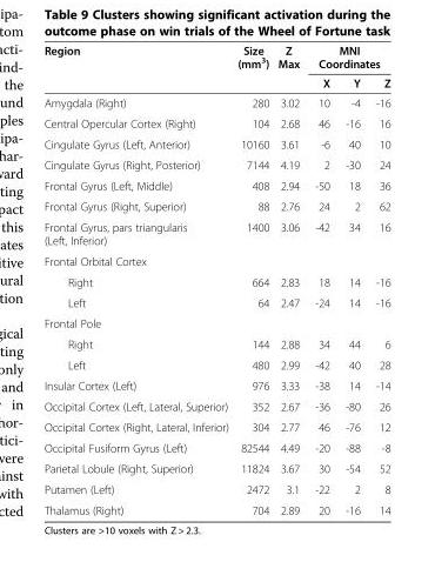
<table><thead><tr><td rowspan="2">Region</td><td rowspan="2">Size (mm<sup>3</sup>)</td><td rowspan="2">Z Max</td><td colspan="3">MNI Coordinates</td></tr><tr><td>X</td><td>Y</td><td>Z</td></tr></thead><tbody><tr><td>Amygdala (Right)</td><td>280</td><td>3.02</td><td>10</td><td>-4</td><td>-16</td></tr><tr><td>Central Opercular Cortex (Right)</td><td>104</td><td>2.68</td><td>46</td><td>-16</td><td>16</td></tr><tr><td>Cingulate Gyrus (Left, Anterior)</td><td>10160</td><td>3.61</td><td>-6</td><td>40</td><td>10</td></tr><tr><td>Cingulate Gyrus (Right, Posterior)</td><td>7144</td><td>4.19</td><td>2</td><td>-30</td><td>24</td></tr><tr><td>Frontal Gyrus (Left, Middle)</td><td>408</td><td>2.94</td><td>-50</td><td>18</td><td>36</td></tr><tr><td>Frontal Gyrus (Right, Superior)</td><td>88</td><td>2.76</td><td>24</td><td>2</td><td>62</td></tr><tr><td>Frontal Gyrus, pars triangularis (Left, Inferior)</td><td>1400</td><td>3.06</td><td>-42</td><td>34</td><td>16</td></tr><tr><td colspan="6">Frontal Orbital Cortex</td></tr><tr><td>Right</td><td>664</td><td>2.83</td><td>18</td><td>14</td><td>-16</td></tr><tr><td>Left</td><td>64</td><td>2.47</td><td>-24</td><td>14</td><td>-16</td></tr><tr><td colspan="6">Frontal Pole</td></tr><tr><td>Right</td><td>144</td><td>2.88</td><td>34</td><td>44</td><td>6</td></tr><tr><td>Left</td><td>480</td><td>2.99</td><td>-42</td><td>40</td><td>28</td></tr><tr><td>Insular Cortex (Left)</td><td>976</td><td>3.33</td><td>-38</td><td>14</td><td>-14</td></tr><tr><td>Occipital Cortex (Left, Lateral, Superior)</td><td>352</td><td>2.67</td><td>-36</td><td>-80</td><td>26</td></tr><tr><td>Occipital Cortex (Right, Lateral, Inferior)</td><td>304</td><td>2.77</td><td>46</td><td>-76</td><td>12</td></tr><tr><td>Occipital Fusiform Gyrus (Left)</td><td>82544</td><td>4.49</td><td>-20</td><td>-88</td><td>-8</td></tr><tr><td>Parietal Lobule (Right, Superior)</td><td>11824</td><td>3.67</td><td>30</td><td>-54</td><td>52</td></tr><tr><td>Putamen (Left)</td><td>2472</td><td>3.1</td><td>-22</td><td>2</td><td>8</td></tr><tr><td>Thalamus (Right)</td><td>704</td><td>2.89</td><td>20</td><td>-16</td><td>14</td></tr></tbody></table>